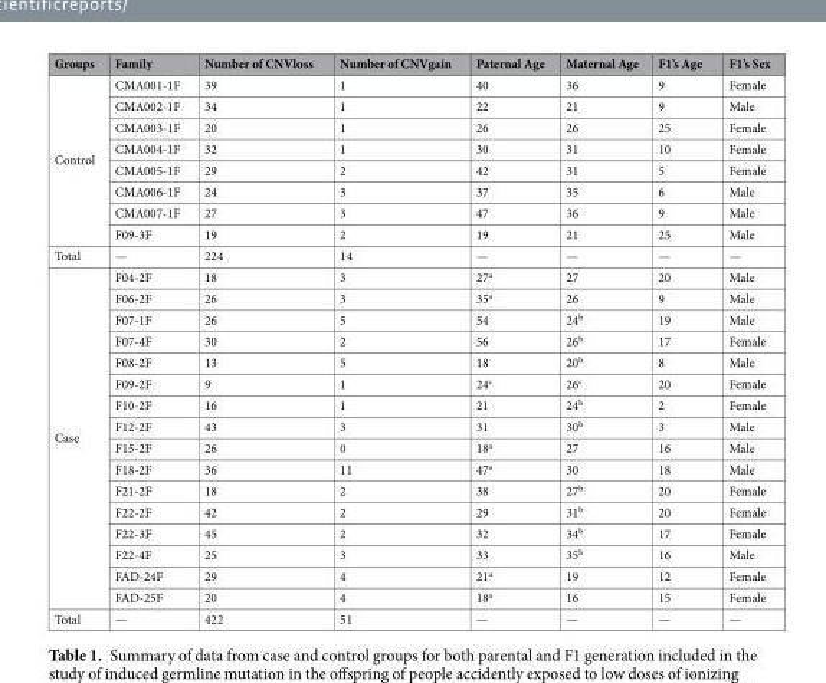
<table><thead><tr><td>Groups</td><td>Family</td><td>Number of CNVloss</td><td>Number of CNVgain</td><td>Paternal Age</td><td>Maternal Age</td><td>F1’s Age</td><td>F1’s Sex</td></tr></thead><tbody><tr><td rowspan="8">Control</td><td>CMA001-1F</td><td>39</td><td>1</td><td>40</td><td>36</td><td>9</td><td>Female</td></tr><tr><td>CMA002-1F</td><td>34</td><td>1</td><td>22</td><td>21</td><td>9</td><td>Male</td></tr><tr><td>CMA003-1F</td><td>20</td><td>1</td><td>26</td><td>26</td><td>25</td><td>Female</td></tr><tr><td>CMA004-1F</td><td>32</td><td>1</td><td>30</td><td>31</td><td>10</td><td>Female</td></tr><tr><td>CMA005-1F</td><td>29</td><td>2</td><td>42</td><td>31</td><td>5</td><td>Female</td></tr><tr><td>CMA006-1F</td><td>24</td><td>3</td><td>37</td><td>35</td><td>6</td><td>Male</td></tr><tr><td>CMA007-1F</td><td>27</td><td>3</td><td>47</td><td>36</td><td>9</td><td>Male</td></tr><tr><td>F09-3F</td><td>19</td><td>2</td><td>19</td><td>21</td><td>25</td><td>Male</td></tr><tr><td>Total</td><td>—</td><td>224</td><td>14</td><td>—</td><td>—</td><td>—</td><td>—</td></tr><tr><td rowspan="16">Case</td><td>F04-2F</td><td>18</td><td>3</td><td>27<sup>a</sup></td><td>27</td><td>20</td><td>Male</td></tr><tr><td>F06-2F</td><td>26</td><td>3</td><td>35<sup>a</sup></td><td>26</td><td>9</td><td>Male</td></tr><tr><td>F07-1F</td><td>26</td><td>5</td><td>54</td><td>24<sup>b</sup></td><td>19</td><td>Male</td></tr><tr><td>F07-4F</td><td>30</td><td>2</td><td>56</td><td>26<sup>b</sup></td><td>17</td><td>Female</td></tr><tr><td>F08-2F</td><td>13</td><td>5</td><td>18</td><td>20<sup>b</sup></td><td>8</td><td>Male</td></tr><tr><td>F09-2F</td><td>9</td><td>1</td><td>24<sup>c</sup></td><td>26<sup>c</sup></td><td>20</td><td>Female</td></tr><tr><td>F10-2F</td><td>16</td><td>1</td><td>21</td><td>24<sup>b</sup></td><td>2</td><td>Female</td></tr><tr><td>F12-2F</td><td>43</td><td>3</td><td>31</td><td>30<sup>b</sup></td><td>3</td><td>Male</td></tr><tr><td>F15-2F</td><td>26</td><td>0</td><td>18<sup>a</sup></td><td>27</td><td>16</td><td>Male</td></tr><tr><td>F18-2F</td><td>36</td><td>11</td><td>47<sup>a</sup></td><td>30</td><td>18</td><td>Male</td></tr><tr><td>F21-2F</td><td>18</td><td>2</td><td>38</td><td>27<sup>b</sup></td><td>20</td><td>Female</td></tr><tr><td>F22-2F</td><td>42</td><td>2</td><td>29</td><td>31<sup>b</sup></td><td>20</td><td>Female</td></tr><tr><td>F22-3F</td><td>45</td><td>2</td><td>32</td><td>34<sup>b</sup></td><td>17</td><td>Female</td></tr><tr><td>F22-4F</td><td>25</td><td>3</td><td>33</td><td>35<sup>b</sup></td><td>16</td><td>Male</td></tr><tr><td>FAD-24F</td><td>29</td><td>4</td><td>21<sup>a</sup></td><td>19</td><td>12</td><td>Female</td></tr><tr><td>FAD-25F</td><td>20</td><td>4</td><td>18<sup>a</sup></td><td>16</td><td>15</td><td>Female</td></tr><tr><td>Total</td><td>—</td><td>422</td><td>51</td><td>—</td><td>—</td><td>—</td><td>—</td></tr></tbody></table>